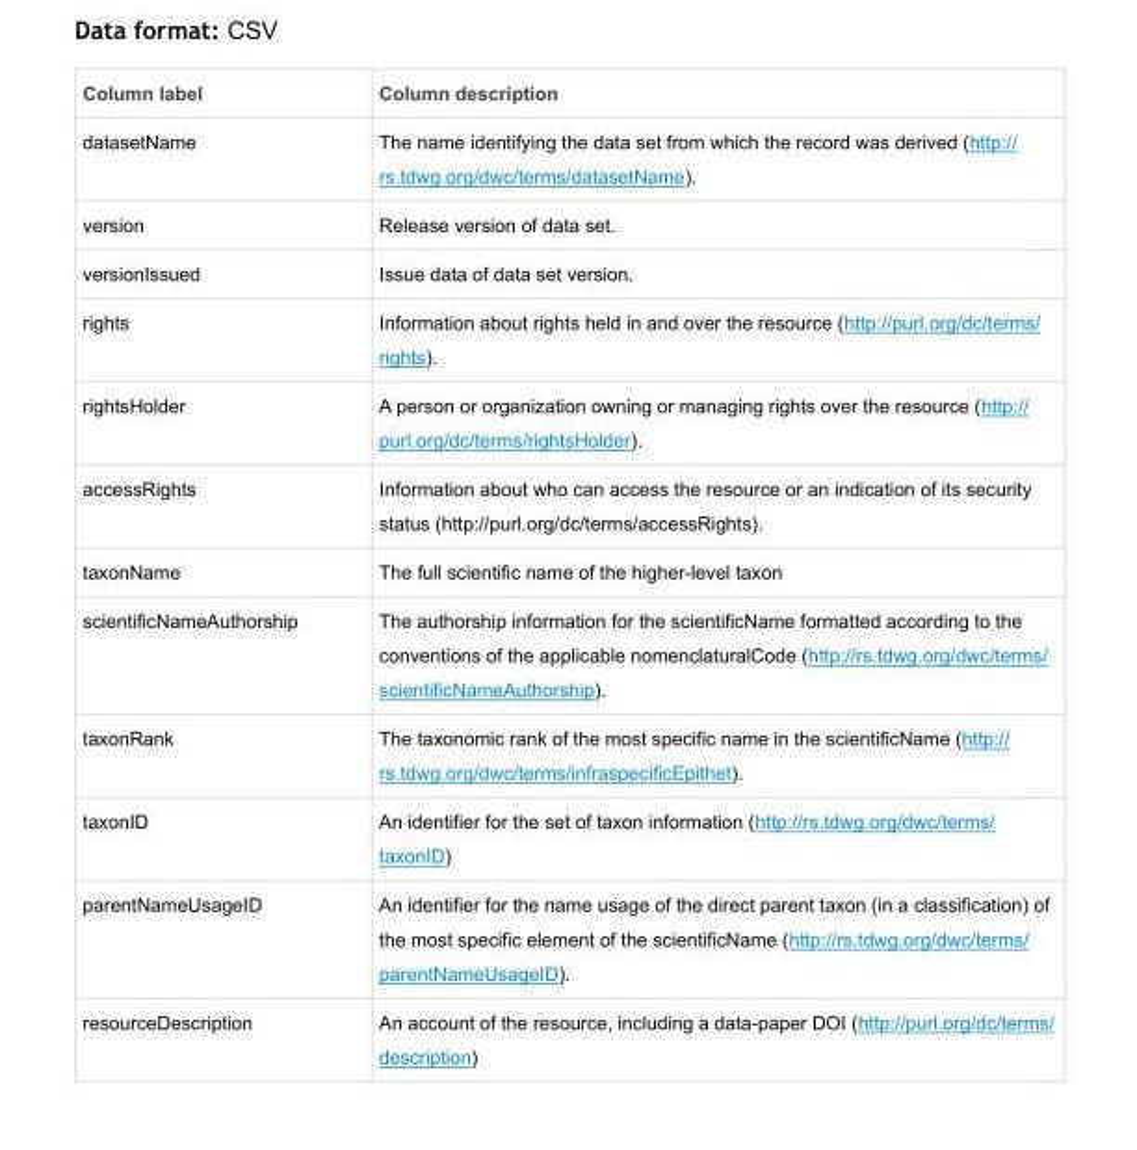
<table><thead><tr><td>Column label</td><td>Column description</td></tr></thead><tbody><tr><td>datasetName</td><td>The name identifying the data set from which the record was derived (http:// rs.tdwg.org/dwc/terms/datasetName).</td></tr><tr><td>version</td><td>Release version of data set.</td></tr><tr><td>versionIssued</td><td>Issue data of data set version.</td></tr><tr><td>rights</td><td>Information about rights held in and over the resource (http://purl.org/dc/terms/ rights).</td></tr><tr><td>rightsHolder</td><td>A person or organization owning or managing rights over the resource (http:// purl.org/dc/terms/rightsHolder).</td></tr><tr><td>accessRights</td><td>Information about who can access the resource or an indication of its security status (http://purl.org/dc/terms/accessRights).</td></tr><tr><td>taxonName</td><td>The full scientific name of the higher-level taxon</td></tr><tr><td>scientificNameAuthorship</td><td>The authorship information for the scientificName formatted according to the conventions of the applicable nomenclaturalCode (http://rs.tdwg.org/dwc/terms/ scientificNameAuthorship).</td></tr><tr><td>taxonRank</td><td>The taxonomic rank of the most specific name in the scientificName (http:// rs.tdwg.org/dwc/terms/infraspecificEpithet).</td></tr><tr><td>taxonID</td><td>An identifier for the set of taxon information (http://rs.tdwg.org/dwc/terms/ taxonID)</td></tr><tr><td>parentNameUsageID</td><td>An identifier for the name usage of the direct parent taxon (in a classification) of the most specific element of the scientificName (http://rs.tdwg.org/dwc/terms/ parentNameUsageID).</td></tr><tr><td>resourceDescription</td><td>An account of the resource, including a data-paper DOI (http://purl.org/dc/terms/ description)</td></tr></tbody></table>